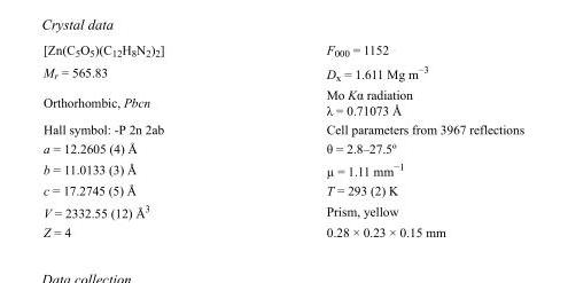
<table><tbody><tr><td>[Zn(C<sub>5</sub>O<sub>5</sub>)(C<sub>12</sub>H<sub>8</sub>N<sub>2</sub>)<sub>2</sub>]</td><td>F<sub>000</sub> = 1152</td></tr><tr><td>M<sub>r</sub> = 565.83</td><td>D<sub>x</sub> = 1.611 Mg m<sup>−3</sup></td></tr><tr><td>Orthorhombic, Pbcn</td><td>Mo Kα radiation λ = 0.71073 Å</td></tr><tr><td>Hall symbol: -P 2n 2ab</td><td>Cell parameters from 3967 reflections</td></tr><tr><td>a = 12.2605 (4) Å</td><td>θ = 2.8–27.5º</td></tr><tr><td>b = 11.0133 (3) Å</td><td>µ = 1.11 mm<sup>−1</sup></td></tr><tr><td>c = 17.2745 (5) Å</td><td>T = 293 (2) K</td></tr><tr><td>V = 2332.55 (12) Å<sup>3</sup></td><td>Prism, yellow</td></tr><tr><td>Z = 4</td><td>0.28 × 0.23 × 0.15 mm</td></tr></tbody></table>